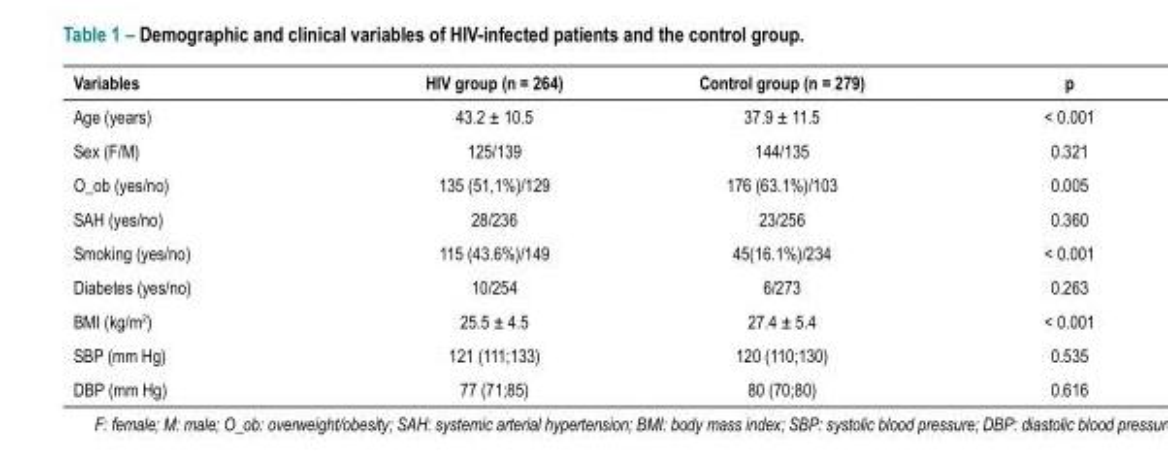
<table><thead><tr><td>Variables</td><td>HIV group (n = 264)</td><td>Control group (n = 279)</td><td>p</td></tr></thead><tbody><tr><td>Age (years)</td><td>43.2 ± 10.5</td><td>37.9 ± 11.5</td><td>&lt; 0.001</td></tr><tr><td>Sex (F/M)</td><td>125/139</td><td>144/135</td><td>0.321</td></tr><tr><td>O_ob (yes/no)</td><td>135 (51,1%)/129</td><td>176 (63.1%)/103</td><td>0.005</td></tr><tr><td>SAH (yes/no)</td><td>28/236</td><td>23/256</td><td>0.360</td></tr><tr><td>Smoking (yes/no)</td><td>115 (43.6%)/149</td><td>45(16.1%)/234</td><td>&lt; 0.001</td></tr><tr><td>Diabetes (yes/no)</td><td>10/254</td><td>6/273</td><td>0.263</td></tr><tr><td>BMI (kg/m<sup>2</sup>)</td><td>25.5 ± 4.5</td><td>27.4 ± 5.4</td><td>&lt; 0.001</td></tr><tr><td>SBP (mm Hg)</td><td>121 (111;133)</td><td>120 (110;130)</td><td>0.535</td></tr><tr><td>DBP (mm Hg)</td><td>77 (71;85)</td><td>80 (70;80)</td><td>0.616</td></tr></tbody></table>